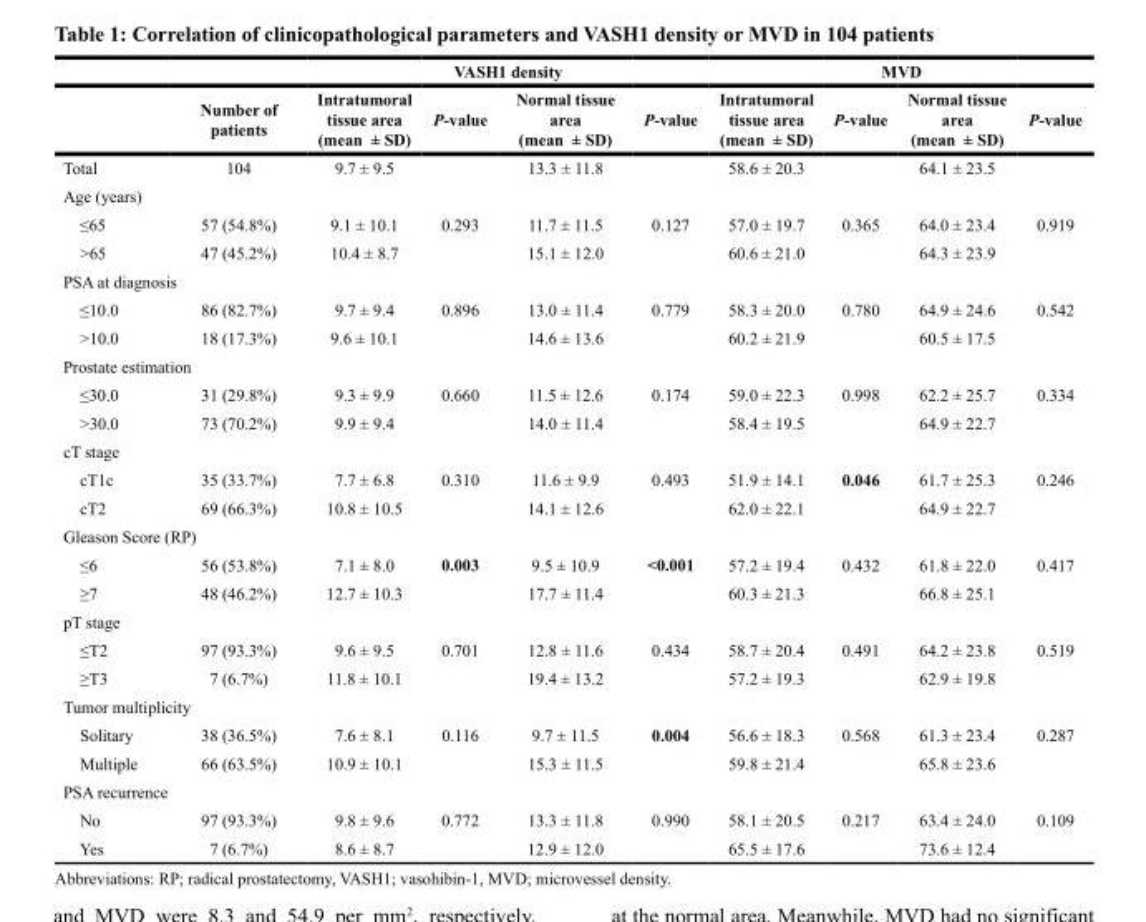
<table><thead><tr><td rowspan="2"></td><td rowspan="2">Number of patients</td><td colspan="4">VASH1 density</td><td colspan="4">MVD</td></tr><tr><td>Intratumoral tissue area (mean ± SD)</td><td>P-value</td><td>Normal tissue area (mean ± SD)</td><td>P-value</td><td>Intratumoral tissue area (mean ± SD)</td><td>P-value</td><td>Normal tissue area (mean ± SD)</td><td>P-value</td></tr></thead><tbody><tr><td>Total</td><td>104</td><td>9.7 ± 9.5</td><td></td><td>13.3 ± 11.8</td><td></td><td>58.6 ± 20.3</td><td></td><td>64.1 ± 23.5</td><td></td></tr><tr><td colspan="10">Age (years)</td></tr><tr><td>≤65</td><td>57 (54.8%)</td><td>9.1 ± 10.1</td><td>0.293</td><td>11.7 ± 11.5</td><td>0.127</td><td>57.0 ± 19.7</td><td>0.365</td><td>64.0 ± 23.4</td><td>0.919</td></tr><tr><td>&gt;65</td><td>47 (45.2%)</td><td>10.4 ± 8.7</td><td></td><td>15.1 ± 12.0</td><td></td><td>60.6 ± 21.0</td><td></td><td>64.3 ± 23.9</td><td></td></tr><tr><td colspan="10">PSA at diagnosis</td></tr><tr><td>≤10.0</td><td>86 (82.7%)</td><td>9.7 ± 9.4</td><td>0.896</td><td>13.0 ± 11.4</td><td>0.779</td><td>58.3 ± 20.0</td><td>0.780</td><td>64.9 ± 24.6</td><td>0.542</td></tr><tr><td>&gt;10.0</td><td>18 (17.3%)</td><td>9.6 ± 10.1</td><td></td><td>14.6 ± 13.6</td><td></td><td>60.2 ± 21.9</td><td></td><td>60.5 ± 17.5</td><td></td></tr><tr><td colspan="10">Prostate estimation</td></tr><tr><td>≤30.0</td><td>31 (29.8%)</td><td>9.3 ± 9.9</td><td>0.660</td><td>11.5 ± 12.6</td><td>0.174</td><td>59.0 ± 22.3</td><td>0.998</td><td>62.2 ± 25.7</td><td>0.334</td></tr><tr><td>&gt;30.0</td><td>73 (70.2%)</td><td>9.9 ± 9.4</td><td></td><td>14.0 ± 11.4</td><td></td><td>58.4 ± 19.5</td><td></td><td>64.9 ± 22.7</td><td></td></tr><tr><td colspan="10">cT stage</td></tr><tr><td>cT1c</td><td>35 (33.7%)</td><td>7.7 ± 6.8</td><td>0.310</td><td>11.6 ± 9.9</td><td>0.493</td><td>51.9 ± 14.1</td><td>0.046</td><td>61.7 ± 25.3</td><td>0.246</td></tr><tr><td>cT2</td><td>69 (66.3%)</td><td>10.8 ± 10.5</td><td></td><td>14.1 ± 12.6</td><td></td><td>62.0 ± 22.1</td><td></td><td>64.9 ± 22.7</td><td></td></tr><tr><td colspan="10">Gleason Score (RP)</td></tr><tr><td>≤6</td><td>56 (53.8%)</td><td>7.1 ± 8.0</td><td>0.003</td><td>9.5 ± 10.9</td><td>&lt;0.001</td><td>57.2 ± 19.4</td><td>0.432</td><td>61.8 ± 22.0</td><td>0.417</td></tr><tr><td>≥7</td><td>48 (46.2%)</td><td>12.7 ± 10.3</td><td></td><td>17.7 ± 11.4</td><td></td><td>60.3 ± 21.3</td><td></td><td>66.8 ± 25.1</td><td></td></tr><tr><td colspan="10">pT stage</td></tr><tr><td>≤T2</td><td>97 (93.3%)</td><td>9.6 ± 9.5</td><td>0.701</td><td>12.8 ± 11.6</td><td>0.434</td><td>58.7 ± 20.4</td><td>0.491</td><td>64.2 ± 23.8</td><td>0.519</td></tr><tr><td>≥T3</td><td>7 (6.7%)</td><td>11.8 ± 10.1</td><td></td><td>19.4 ± 13.2</td><td></td><td>57.2 ± 19.3</td><td></td><td>62.9 ± 19.8</td><td></td></tr><tr><td colspan="10">Tumor multiplicity</td></tr><tr><td>Solitary</td><td>38 (36.5%)</td><td>7.6 ± 8.1</td><td>0.116</td><td>9.7 ± 11.5</td><td>0.004</td><td>56.6 ± 18.3</td><td>0.568</td><td>61.3 ± 23.4</td><td>0.287</td></tr><tr><td>Multiple</td><td>66 (63.5%)</td><td>10.9 ± 10.1</td><td></td><td>15.3 ± 11.5</td><td></td><td>59.8 ± 21.4</td><td></td><td>65.8 ± 23.6</td><td></td></tr><tr><td colspan="10">PSA recurrence</td></tr><tr><td>No</td><td>97 (93.3%)</td><td>9.8 ± 9.6</td><td>0.772</td><td>13.3 ± 11.8</td><td>0.990</td><td>58.1 ± 20.5</td><td>0.217</td><td>63.4 ± 24.0</td><td>0.109</td></tr><tr><td>Yes</td><td>7 (6.7%)</td><td>8.6 ± 8.7</td><td></td><td>12.9 ± 12.0</td><td></td><td>65.5 ± 17.6</td><td></td><td>73.6 ± 12.4</td><td></td></tr></tbody></table>